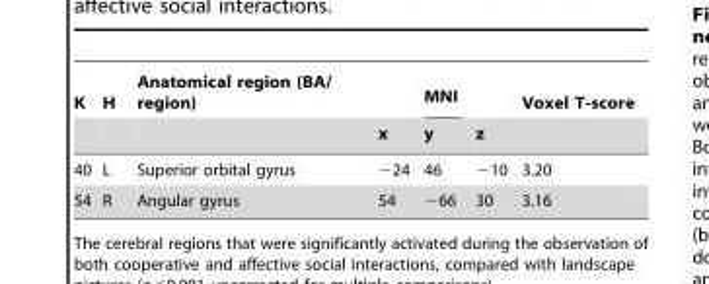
<table><thead><tr><td rowspan="2">K</td><td rowspan="2">H</td><td rowspan="2">Anatomical region (BA/ region)</td><td rowspan="2">x</td><td rowspan="2">MNI y</td><td rowspan="2">z</td><td rowspan="2">Voxel T-score</td></tr><tr></tr></thead><tbody><tr><td>40</td><td>L</td><td>Superior orbital gyrus</td><td>−24</td><td>46</td><td>−10</td><td>3.20</td></tr><tr><td>54</td><td>R</td><td>Angular gyrus</td><td>54</td><td>−66</td><td>30</td><td>3.16</td></tr></tbody></table>